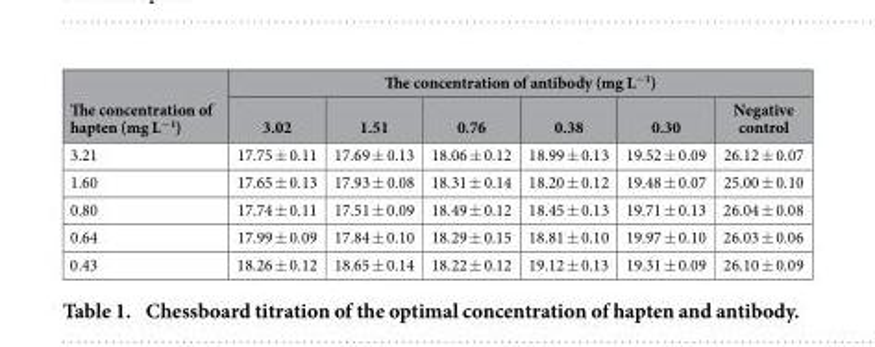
<table><thead><tr><td rowspan="2">The concentration of hapten (mg L<sup>−1</sup>)</td><td colspan="6">The concentration of antibody (mg L<sup>−1</sup>)</td></tr><tr><td>3.02</td><td>1.51</td><td>0.76</td><td>0.38</td><td>0.30</td><td>Negative control</td></tr></thead><tbody><tr><td>3.21</td><td>17.75 ± 0.11</td><td>17.69 ± 0.13</td><td>18.06 ± 0.12</td><td>18.99 ± 0.13</td><td>19.52 ± 0.09</td><td>26.12 ± 0.07</td></tr><tr><td>1.60</td><td>17.65 ± 0.13</td><td>17.93 ± 0.08</td><td>18.31 ± 0.14</td><td>18.20 ± 0.12</td><td>19.48 ± 0.07</td><td>25.00 ± 0.10</td></tr><tr><td>0.80</td><td>17.74 ± 0.11</td><td>17.51 ± 0.09</td><td>18.49 ± 0.12</td><td>18.45 ± 0.13</td><td>19.71 ± 0.13</td><td>26.04 ± 0.08</td></tr><tr><td>0.64</td><td>17.99 ± 0.09</td><td>17.84 ± 0.10</td><td>18.29 ± 0.15</td><td>18.81 ± 0.10</td><td>19.97 ± 0.10</td><td>26.03 ± 0.06</td></tr><tr><td>0.43</td><td>18.26 ± 0.12</td><td>18.65 ± 0.14</td><td>18.22 ± 0.12</td><td>19.12 ± 0.13</td><td>19.31 ± 0.09</td><td>26.10 ± 0.09</td></tr></tbody></table>